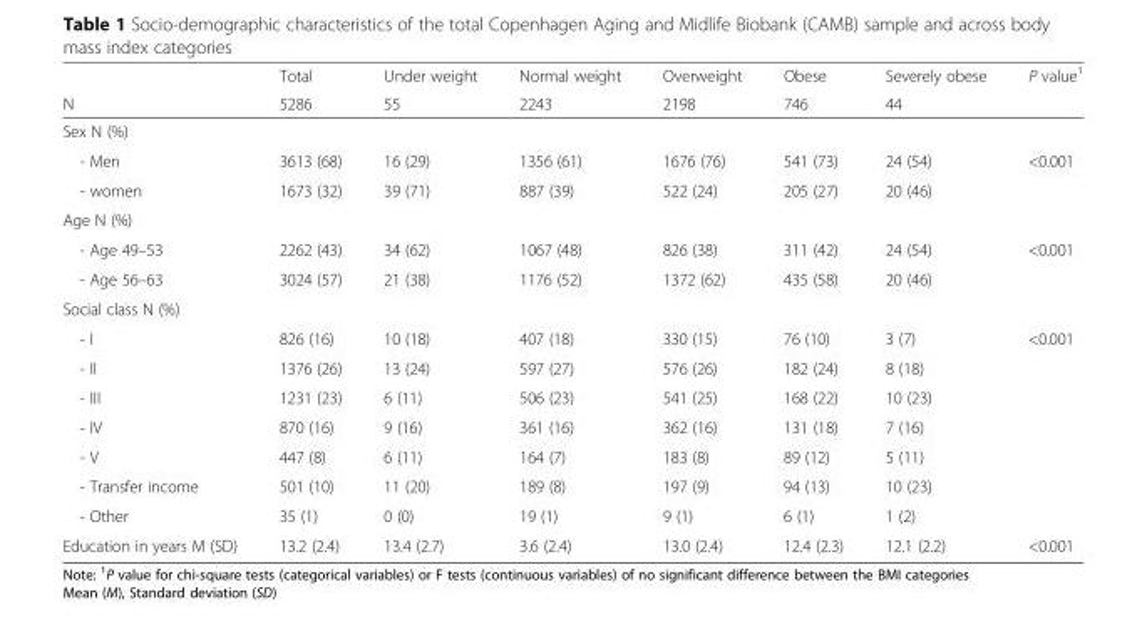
<table><thead><tr><td rowspan="2">N</td><td rowspan="2">Total 5286</td><td rowspan="2">Under weight 55</td><td rowspan="2">Normal weight 2243</td><td rowspan="2">Overweight 2198</td><td rowspan="2">Obese 746</td><td rowspan="2">Severely obese 44</td><td rowspan="2">P value<sup>1</sup></td></tr><tr></tr></thead><tbody><tr><td colspan="8">Sex N (%)</td></tr><tr><td>- Men</td><td>3613 (68)</td><td>16 (29)</td><td>1356 (61)</td><td>1676 (76)</td><td>541 (73)</td><td>24 (54)</td><td rowspan="2">&lt;0.001</td></tr><tr><td>- women</td><td>1673 (32)</td><td>39 (71)</td><td>887 (39)</td><td>522 (24)</td><td>205 (27)</td><td>20 (46)</td></tr><tr><td colspan="8">Age N (%)</td></tr><tr><td>- Age 49–53</td><td>2262 (43)</td><td>34 (62)</td><td>1067 (48)</td><td>826 (38)</td><td>311 (42)</td><td>24 (54)</td><td rowspan="2">&lt;0.001</td></tr><tr><td>- Age 56–63</td><td>3024 (57)</td><td>21 (38)</td><td>1176 (52)</td><td>1372 (62)</td><td>435 (58)</td><td>20 (46)</td></tr><tr><td colspan="8">Social class N (%)</td></tr><tr><td>- I</td><td>826 (16)</td><td>10 (18)</td><td>407 (18)</td><td>330 (15)</td><td>76 (10)</td><td>3 (7)</td><td rowspan="7">&lt;0.001</td></tr><tr><td>- II</td><td>1376 (26)</td><td>13 (24)</td><td>597 (27)</td><td>576 (26)</td><td>182 (24)</td><td>8 (18)</td></tr><tr><td>- III</td><td>1231 (23)</td><td>6 (11)</td><td>506 (23)</td><td>541 (25)</td><td>168 (22)</td><td>10 (23)</td></tr><tr><td>- IV</td><td>870 (16)</td><td>9 (16)</td><td>361 (16)</td><td>362 (16)</td><td>131 (18)</td><td>7 (16)</td></tr><tr><td>- V</td><td>447 (8)</td><td>6 (11)</td><td>164 (7)</td><td>183 (8)</td><td>89 (12)</td><td>5 (11)</td></tr><tr><td>- Transfer income</td><td>501 (10)</td><td>11 (20)</td><td>189 (8)</td><td>197 (9)</td><td>94 (13)</td><td>10 (23)</td></tr><tr><td>- Other</td><td>35 (1)</td><td>0 (0)</td><td>19 (1)</td><td>9 (1)</td><td>6 (1)</td><td>1 (2)</td></tr><tr><td>Education in years M (SD)</td><td>13.2 (2.4)</td><td>13.4 (2.7)</td><td>3.6 (2.4)</td><td>13.0 (2.4)</td><td>12.4 (2.3)</td><td>12.1 (2.2)</td><td>&lt;0.001</td></tr></tbody></table>